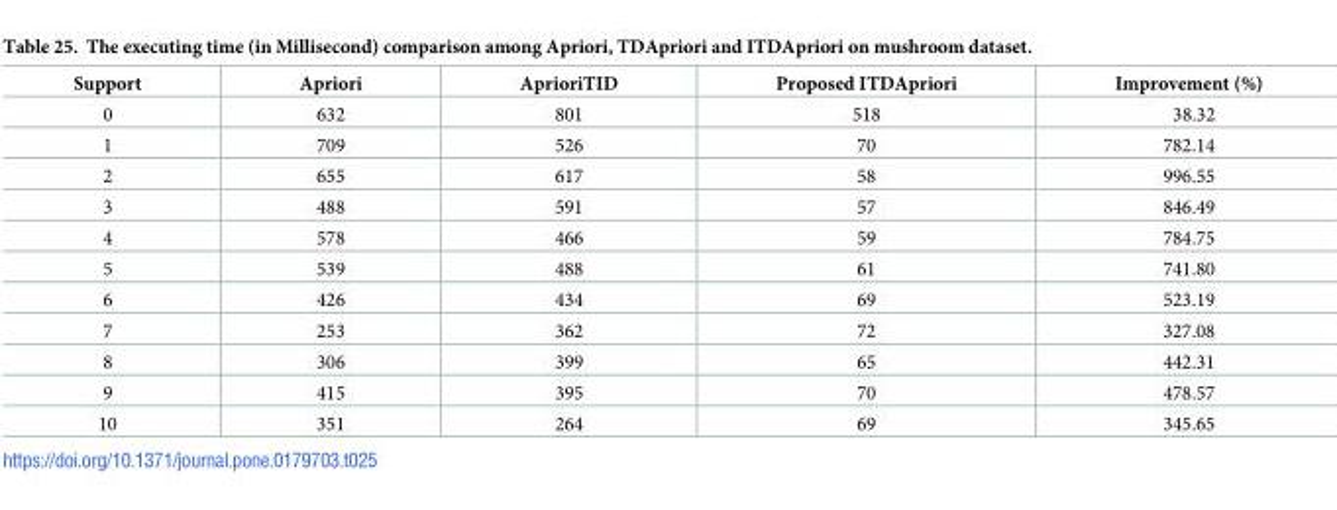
<table><thead><tr><td>Support</td><td>Apriori</td><td>AprioriTID</td><td>Proposed ITDApriori</td><td>Improvement (%)</td></tr></thead><tbody><tr><td>0</td><td>632</td><td>801</td><td>518</td><td>38.32</td></tr><tr><td>1</td><td>709</td><td>526</td><td>70</td><td>782.14</td></tr><tr><td>2</td><td>655</td><td>617</td><td>58</td><td>996.55</td></tr><tr><td>3</td><td>488</td><td>591</td><td>57</td><td>846.49</td></tr><tr><td>4</td><td>578</td><td>466</td><td>59</td><td>784.75</td></tr><tr><td>5</td><td>539</td><td>488</td><td>61</td><td>741.80</td></tr><tr><td>6</td><td>426</td><td>434</td><td>69</td><td>523.19</td></tr><tr><td>7</td><td>253</td><td>362</td><td>72</td><td>327.08</td></tr><tr><td>8</td><td>306</td><td>399</td><td>65</td><td>442.31</td></tr><tr><td>9</td><td>415</td><td>395</td><td>70</td><td>478.57</td></tr><tr><td>10</td><td>351</td><td>264</td><td>69</td><td>345.65</td></tr></tbody></table>